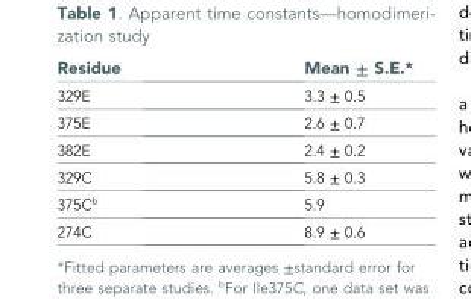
<table><thead><tr><td>Residue</td><td>Mean ± S.E.*</td></tr></thead><tbody><tr><td>329E</td><td>3.3 ± 0.5</td></tr><tr><td>375E</td><td>2.6 ± 0.7</td></tr><tr><td>382E</td><td>2.4 ± 0.2</td></tr><tr><td>329C</td><td>5.8 ± 0.3</td></tr><tr><td>375C<sup>b</sup></td><td>5.9</td></tr><tr><td>274C</td><td>8.9 ± 0.6</td></tr></tbody></table>